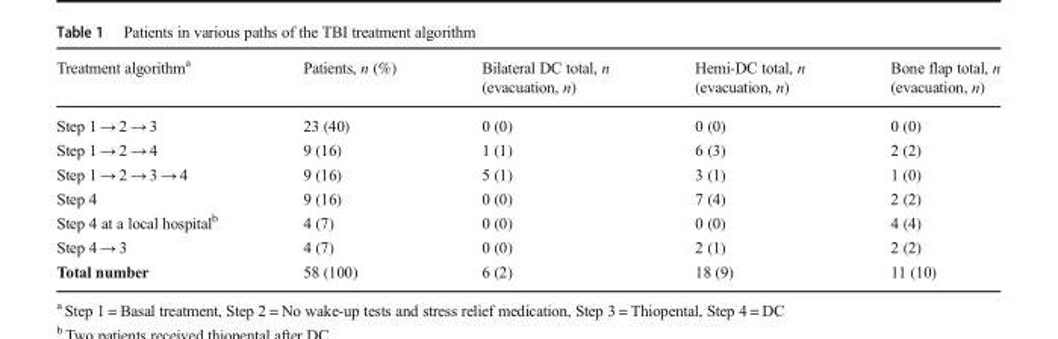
<table><thead><tr><td>Treatment algorithm<sup>a</sup></td><td>Patients, n (%)</td><td>Bilateral DC total, n (evacuation, n)</td><td>Hemi-DC total, n (evacuation, n)</td><td>Bone flap total, n (evacuation, n)</td></tr></thead><tbody><tr><td>Step 1 → 2 → 3</td><td>23 (40)</td><td>0 (0)</td><td>0 (0)</td><td>0 (0)</td></tr><tr><td>Step 1 → 2 → 4</td><td>9 (16)</td><td>1 (1)</td><td>6 (3)</td><td>2 (2)</td></tr><tr><td>Step 1 → 2 → 3 → 4</td><td>9 (16)</td><td>5 (1)</td><td>3 (1)</td><td>1 (0)</td></tr><tr><td>Step 4</td><td>9 (16)</td><td>0 (0)</td><td>7 (4)</td><td>2 (2)</td></tr><tr><td>Step 4 at a local hospital<sup>b</sup></td><td>4 (7)</td><td>0 (0)</td><td>0 (0)</td><td>4 (4)</td></tr><tr><td>Step 4 → 3</td><td>4 (7)</td><td>0 (0)</td><td>2 (1)</td><td>2 (2)</td></tr><tr><td>Total number</td><td>58 (100)</td><td>6 (2)</td><td>18 (9)</td><td>11 (10)</td></tr></tbody></table>